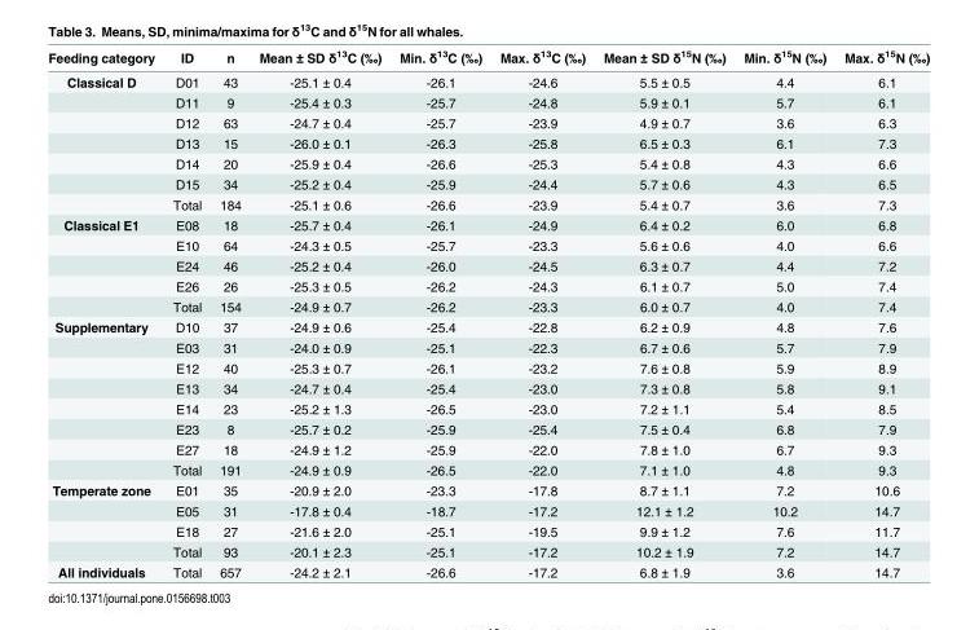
<table><thead><tr><td>Feeding category</td><td>ID</td><td>n</td><td>Mean ± SD δ<sup>13</sup>C (‰)</td><td>Min. δ<sup>13</sup>C (‰)</td><td>Max. δ<sup>13</sup>C (‰)</td><td>Mean ± SD δ<sup>15</sup>N (‰)</td><td>Min. δ<sup>15</sup>N (‰)</td><td>Max. δ<sup>15</sup>N (‰)</td></tr></thead><tbody><tr><td rowspan="7">Classical D</td><td>D01</td><td>43</td><td>-25.1 ± 0.4</td><td>-26.1</td><td>-24.6</td><td>5.5 ± 0.5</td><td>4.4</td><td>6.1</td></tr><tr><td>D11</td><td>9</td><td>-25.4 ± 0.3</td><td>-25.7</td><td>-24.8</td><td>5.9 ± 0.1</td><td>5.7</td><td>6.1</td></tr><tr><td>D12</td><td>63</td><td>-24.7 ± 0.4</td><td>-25.7</td><td>-23.9</td><td>4.9 ± 0.7</td><td>3.6</td><td>6.3</td></tr><tr><td>D13</td><td>15</td><td>-26.0 ± 0.1</td><td>-26.3</td><td>-25.8</td><td>6.5 ± 0.3</td><td>6.1</td><td>7.3</td></tr><tr><td>D14</td><td>20</td><td>-25.9 ± 0.4</td><td>-26.6</td><td>-25.3</td><td>5.4 ± 0.8</td><td>4.3</td><td>6.6</td></tr><tr><td>D15</td><td>34</td><td>-25.2 ± 0.4</td><td>-25.9</td><td>-24.4</td><td>5.7 ± 0.6</td><td>4.3</td><td>6.5</td></tr><tr><td>Total</td><td>184</td><td>-25.1 ± 0.6</td><td>-26.6</td><td>-23.9</td><td>5.4 ± 0.7</td><td>3.6</td><td>7.3</td></tr><tr><td rowspan="5">Classical E1</td><td>E08</td><td>18</td><td>-25.7 ± 0.4</td><td>-26.1</td><td>-24.9</td><td>6.4 ± 0.2</td><td>6.0</td><td>6.8</td></tr><tr><td>E10</td><td>64</td><td>-24.3 ± 0.5</td><td>-25.7</td><td>-23.3</td><td>5.6 ± 0.6</td><td>4.0</td><td>6.6</td></tr><tr><td>E24</td><td>46</td><td>-25.2 ± 0.4</td><td>-26.0</td><td>-24.5</td><td>6.3 ± 0.7</td><td>4.4</td><td>7.2</td></tr><tr><td>E26</td><td>26</td><td>-25.3 ± 0.5</td><td>-26.2</td><td>-24.3</td><td>6.1 ± 0.7</td><td>5.0</td><td>7.4</td></tr><tr><td>Total</td><td>154</td><td>-24.9 ± 0.7</td><td>-26.2</td><td>-23.3</td><td>6.0 ± 0.7</td><td>4.0</td><td>7.4</td></tr><tr><td rowspan="8">Supplementary</td><td>D10</td><td>37</td><td>-24.9 ± 0.6</td><td>-25.4</td><td>-22.8</td><td>6.2 ± 0.9</td><td>4.8</td><td>7.6</td></tr><tr><td>E03</td><td>31</td><td>-24.0 ± 0.9</td><td>-25.1</td><td>-22.3</td><td>6.7 ± 0.6</td><td>5.7</td><td>7.9</td></tr><tr><td>E12</td><td>40</td><td>-25.3 ± 0.7</td><td>-26.1</td><td>-23.2</td><td>7.6 ± 0.8</td><td>5.9</td><td>8.9</td></tr><tr><td>E13</td><td>34</td><td>-24.7 ± 0.4</td><td>-25.4</td><td>-23.0</td><td>7.3 ± 0.8</td><td>5.8</td><td>9.1</td></tr><tr><td>E14</td><td>23</td><td>-25.2 ± 1.3</td><td>-26.5</td><td>-23.0</td><td>7.2 ± 1.1</td><td>5.4</td><td>8.5</td></tr><tr><td>E23</td><td>8</td><td>-25.7 ± 0.2</td><td>-25.9</td><td>-25.4</td><td>7.5 ± 0.4</td><td>6.8</td><td>7.9</td></tr><tr><td>E27</td><td>18</td><td>-24.9 ± 1.2</td><td>-25.9</td><td>-22.0</td><td>7.8 ± 1.0</td><td>6.7</td><td>9.3</td></tr><tr><td>Total</td><td>191</td><td>-24.9 ± 0.9</td><td>-26.5</td><td>-22.0</td><td>7.1 ± 1.0</td><td>4.8</td><td>9.3</td></tr><tr><td rowspan="4">Temperate zone</td><td>E01</td><td>35</td><td>-20.9 ± 2.0</td><td>-23.3</td><td>-17.8</td><td>8.7 ± 1.1</td><td>7.2</td><td>10.6</td></tr><tr><td>E05</td><td>31</td><td>-17.8 ± 0.4</td><td>-18.7</td><td>-17.2</td><td>12.1 ± 1.2</td><td>10.2</td><td>14.7</td></tr><tr><td>E18</td><td>27</td><td>-21.6 ± 2.0</td><td>-25.1</td><td>-19.5</td><td>9.9 ± 1.2</td><td>7.6</td><td>11.7</td></tr><tr><td>Total</td><td>93</td><td>-20.1 ± 2.3</td><td>-25.1</td><td>-17.2</td><td>10.2 ± 1.9</td><td>7.2</td><td>14.7</td></tr><tr><td>All individuals</td><td>Total</td><td>657</td><td>-24.2 ± 2.1</td><td>-26.6</td><td>-17.2</td><td>6.8 ± 1.9</td><td>3.6</td><td>14.7</td></tr></tbody></table>